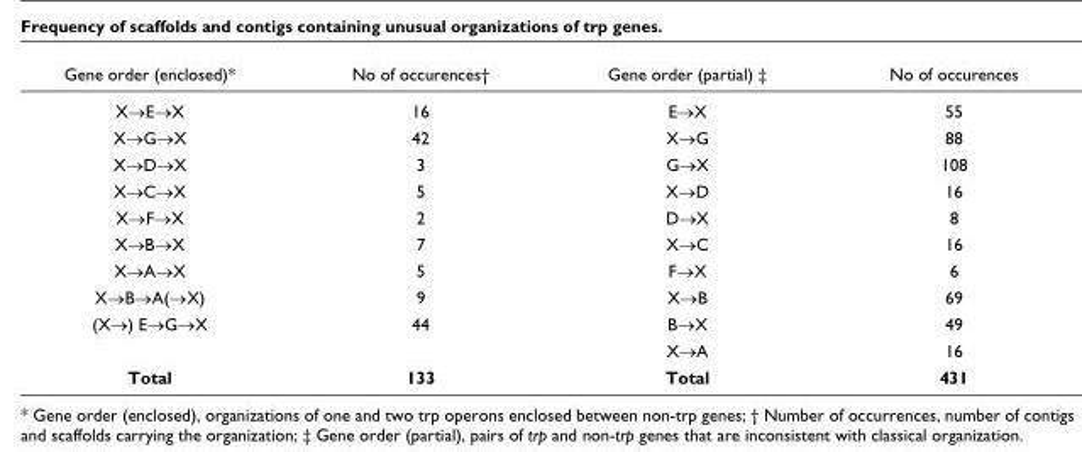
<table><thead><tr><td>Gene order (enclosed)*</td><td>No of occurences†</td><td>Gene order (partial) ‡</td><td>No of occurences</td></tr></thead><tbody><tr><td>X→E→X</td><td>16</td><td>E→X</td><td>55</td></tr><tr><td>X→G→X</td><td>42</td><td>X→G</td><td>88</td></tr><tr><td>X→D→X</td><td>3</td><td>G→X</td><td>108</td></tr><tr><td>X→C→X</td><td>5</td><td>X→D</td><td>16</td></tr><tr><td>X→F→X</td><td>2</td><td>D→X</td><td>8</td></tr><tr><td>X→B→X</td><td>7</td><td>X→C</td><td>16</td></tr><tr><td>X→A→X</td><td>5</td><td>F→X</td><td>6</td></tr><tr><td>X→B→A(→X)</td><td>9</td><td>X→B</td><td>69</td></tr><tr><td rowspan="2">(X→) E→G→X</td><td>44</td><td>B→X</td><td>49</td></tr><tr><td></td><td>X→A</td><td>16</td></tr><tr><td>Total</td><td>133</td><td>Total</td><td>431</td></tr></tbody></table>